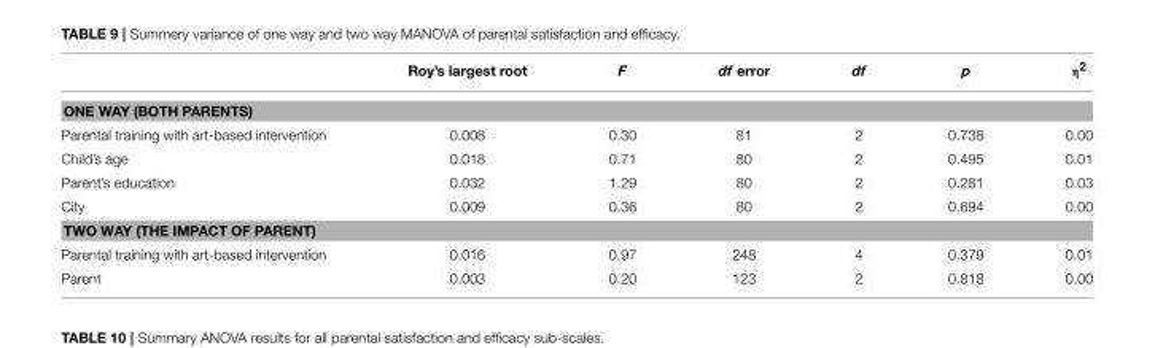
<table><thead><tr><td></td><td>Roy’s largest root</td><td>F</td><td>df error</td><td>df</td><td>p</td><td>η<sup>2</sup></td></tr></thead><tbody><tr><td colspan="7">ONE WAY (BOTH PARENTS)</td></tr><tr><td>Parental training with art-based intervention</td><td>0.008</td><td>0.30</td><td>81</td><td>2</td><td>0.738</td><td>0.00</td></tr><tr><td>Child’s age</td><td>0.018</td><td>0.71</td><td>80</td><td>2</td><td>0.495</td><td>0.01</td></tr><tr><td>Parent’s education</td><td>0.032</td><td>1.29</td><td>80</td><td>2</td><td>0.281</td><td>0.03</td></tr><tr><td>City</td><td>0.009</td><td>0.36</td><td>80</td><td>2</td><td>0.694</td><td>0.00</td></tr><tr><td colspan="7">TWO WAY (THE IMPACT OF PARENT)</td></tr><tr><td>Parental training with art-based intervention</td><td>0.016</td><td>0.97</td><td>248</td><td>4</td><td>0.379</td><td>0.01</td></tr><tr><td>Parent</td><td>0.003</td><td>0.20</td><td>123</td><td>2</td><td>0.818</td><td>0.00</td></tr></tbody></table>